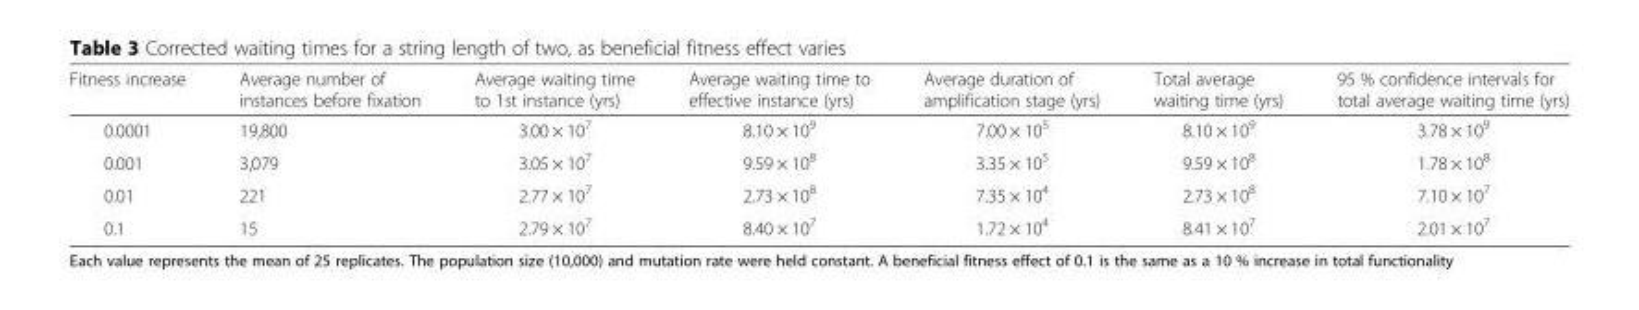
<table><thead><tr><td>Fitness increase</td><td>Average number of instances before fixation</td><td>Average waiting time to 1st instance (yrs)</td><td>Average waiting time to effective instance (yrs)</td><td>Average duration of amplification stage (yrs)</td><td>Total average waiting time (yrs)</td><td>95 % confidence intervals for total average waiting time (yrs)</td></tr></thead><tbody><tr><td>0.0001</td><td>19,800</td><td>3.00 × 10<sup>7</sup></td><td>8.10 × 10<sup>9</sup></td><td>7.00 × 10<sup>5</sup></td><td>8.10 × 10<sup>9</sup></td><td>3.78 × 10<sup>9</sup></td></tr><tr><td>0.001</td><td>3,079</td><td>3.05 × 10<sup>7</sup></td><td>9.59 × 10<sup>8</sup></td><td>3.35 × 10<sup>5</sup></td><td>9.59 × 10<sup>8</sup></td><td>1.78 × 10<sup>8</sup></td></tr><tr><td>0.01</td><td>221</td><td>2.77 × 10<sup>7</sup></td><td>2.73 × 10<sup>8</sup></td><td>7.35 × 10<sup>4</sup></td><td>2.73 × 10<sup>8</sup></td><td>7.10 × 10<sup>7</sup></td></tr><tr><td>0.1</td><td>15</td><td>2.79 × 10<sup>7</sup></td><td>8.40 × 10<sup>7</sup></td><td>1.72 × 10<sup>4</sup></td><td>8.41 × 10<sup>7</sup></td><td>2.01 × 10<sup>7</sup></td></tr></tbody></table>